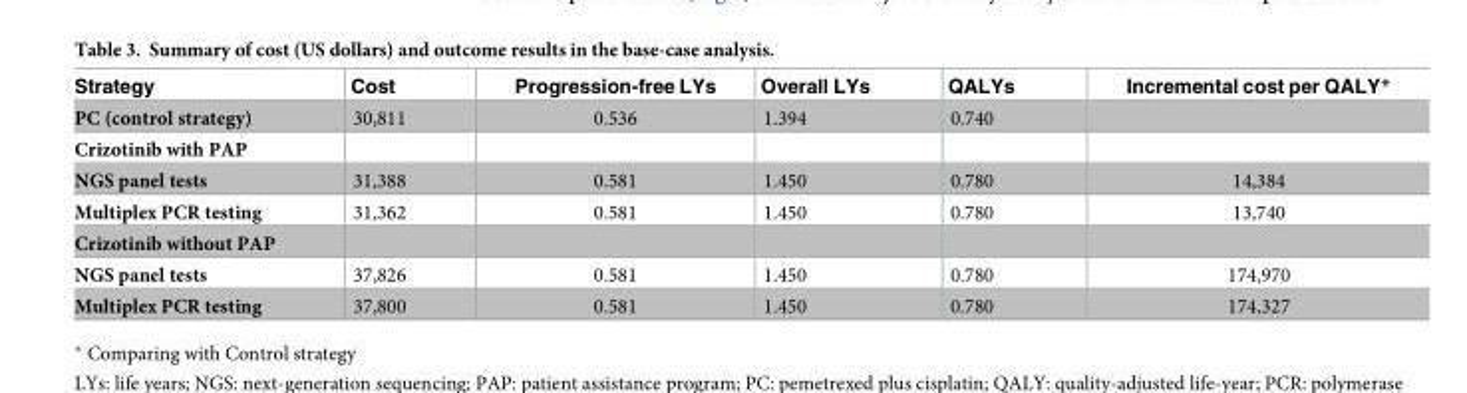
<table><thead><tr><td>Strategy</td><td>Cost</td><td>Progression-free LYs</td><td>Overall LYs</td><td>QALYs</td><td>Incremental cost per QALY*</td></tr></thead><tbody><tr><td>PC (control strategy)</td><td>30,811</td><td>0.536</td><td>1.394</td><td>0.740</td><td></td></tr><tr><td colspan="6">Crizotinib with PAP</td></tr><tr><td>NGS panel tests</td><td>31,388</td><td>0.581</td><td>1.450</td><td>0.780</td><td>14,384</td></tr><tr><td>Multiplex PCR testing</td><td>31,362</td><td>0.581</td><td>1.450</td><td>0.780</td><td>13,740</td></tr><tr><td colspan="6">Crizotinib without PAP</td></tr><tr><td>NGS panel tests</td><td>37,826</td><td>0.581</td><td>1.450</td><td>0.780</td><td>174,970</td></tr><tr><td>Multiplex PCR testing</td><td>37,800</td><td>0.581</td><td>1.450</td><td>0.780</td><td>174,327</td></tr></tbody></table>